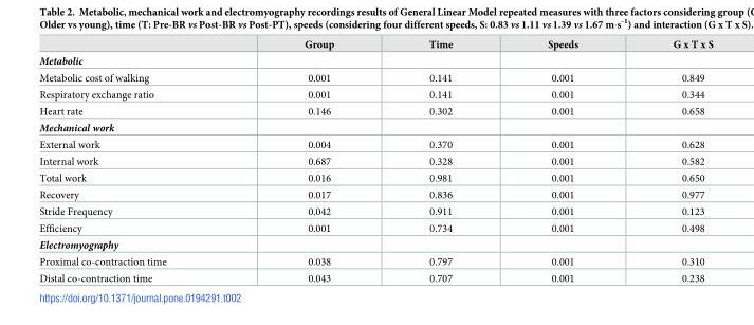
<table><thead><tr><td></td><td>Group</td><td>Time</td><td>Speeds</td><td>G x T x S</td></tr></thead><tbody><tr><td colspan="5">Metabolic</td></tr><tr><td>Metabolic cost of walking</td><td>0.001</td><td>0.141</td><td>0.001</td><td>0.849</td></tr><tr><td>Respiratory exchange ratio</td><td>0.001</td><td>0.141</td><td>0.001</td><td>0.344</td></tr><tr><td>Heart rate</td><td>0.146</td><td>0.302</td><td>0.001</td><td>0.658</td></tr><tr><td colspan="5">Mechanical work</td></tr><tr><td>External work</td><td>0.004</td><td>0.370</td><td>0.001</td><td>0.628</td></tr><tr><td>Internal work</td><td>0.687</td><td>0.328</td><td>0.001</td><td>0.582</td></tr><tr><td>Total work</td><td>0.016</td><td>0.981</td><td>0.001</td><td>0.650</td></tr><tr><td>Recovery</td><td>0.017</td><td>0.836</td><td>0.001</td><td>0.977</td></tr><tr><td>Stride Frequency</td><td>0.042</td><td>0.911</td><td>0.001</td><td>0.123</td></tr><tr><td>Efficiency</td><td>0.001</td><td>0.734</td><td>0.001</td><td>0.498</td></tr><tr><td colspan="5">Electromyography</td></tr><tr><td>Proximal co-contraction time</td><td>0.038</td><td>0.797</td><td>0.001</td><td>0.310</td></tr><tr><td>Distal co-contraction time</td><td>0.043</td><td>0.707</td><td>0.001</td><td>0.238</td></tr></tbody></table>